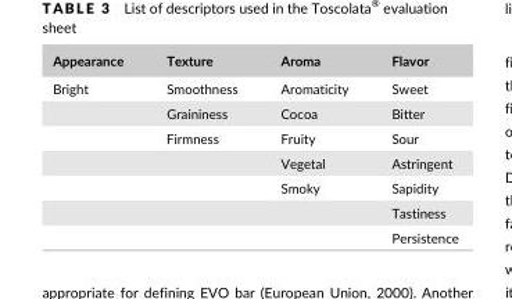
<table><thead><tr><td>Appearance</td><td>Texture</td><td>Aroma</td><td>Flavor</td></tr></thead><tbody><tr><td rowspan="7">Bright</td><td>Smoothness</td><td>Aromaticity</td><td>Sweet</td></tr><tr><td>Graininess</td><td>Cocoa</td><td>Bitter</td></tr><tr><td>Firmness</td><td>Fruity</td><td>Sour</td></tr><tr><td></td><td>Vegetal</td><td>Astringent</td></tr><tr><td></td><td>Smoky</td><td>Sapidity</td></tr><tr><td></td><td></td><td>Tastiness</td></tr><tr><td></td><td></td><td>Persistence</td></tr></tbody></table>